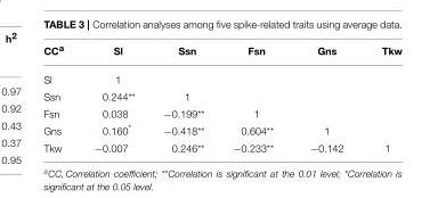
<table><thead><tr><td>CC<sup>a</sup></td><td>Sl</td><td>Ssn</td><td>Fsn</td><td>Gns</td><td>Tkw</td></tr></thead><tbody><tr><td>Sl</td><td>1</td><td></td><td></td><td></td><td></td></tr><tr><td>Ssn</td><td>0.244**</td><td>1</td><td></td><td></td><td></td></tr><tr><td>Fsn</td><td>0.038</td><td>−0.199**</td><td>1</td><td></td><td></td></tr><tr><td>Gns</td><td>0.160*</td><td>−0.418**</td><td>0.604**</td><td>1</td><td></td></tr><tr><td>Tkw</td><td>−0.007</td><td>0.246**</td><td>−0.233**</td><td>−0.142</td><td>1</td></tr></tbody></table>